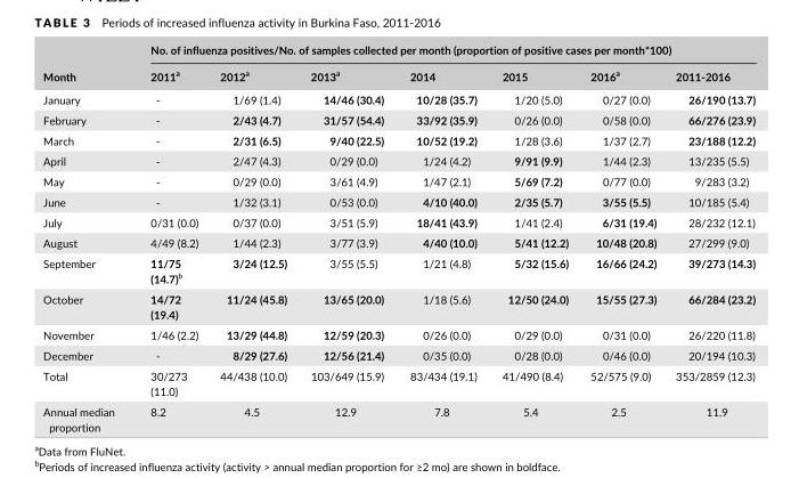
<table><thead><tr><td rowspan="2">Month</td><td colspan="7">No. of influenza positives/No. of samples collected per month (proportion of positive cases per month*100)</td></tr><tr><td>2011<sup>a</sup></td><td>2012<sup>a</sup></td><td>2013<sup>a</sup></td><td>2014</td><td>2015</td><td>2016<sup>a</sup></td><td>2011- 2016</td></tr></thead><tbody><tr><td>January</td><td>-</td><td>1/69 (1.4)</td><td>14/46 (30.4)</td><td>10/28 (35.7)</td><td>1/20 (5.0)</td><td>0/27 (0.0)</td><td>26/190 (13.7)</td></tr><tr><td>February</td><td>-</td><td>2/43 (4.7)</td><td>31/57 (54.4)</td><td>33/92 (35.9)</td><td>0/26 (0.0)</td><td>0/58 (0.0)</td><td>66/276 (23.9)</td></tr><tr><td>March</td><td>-</td><td>2/31 (6.5)</td><td>9/40 (22.5)</td><td>10/52 (19.2)</td><td>1/28 (3.6)</td><td>1/37 (2.7)</td><td>23/188 (12.2)</td></tr><tr><td>April</td><td>-</td><td>2/47 (4.3)</td><td>0/29 (0.0)</td><td>1/24 (4.2)</td><td>9/91 (9.9)</td><td>1/44 (2.3)</td><td>13/235 (5.5)</td></tr><tr><td>May</td><td>-</td><td>0/29 (0.0)</td><td>3/61 (4.9)</td><td>1/47 (2.1)</td><td>5/69 (7.2)</td><td>0/77 (0.0)</td><td>9/283 (3.2)</td></tr><tr><td>June</td><td>-</td><td>1/32 (3.1)</td><td>0/53 (0.0)</td><td>4/10 (40.0)</td><td>2/35 (5.7)</td><td>3/55 (5.5)</td><td>10/185 (5.4)</td></tr><tr><td>July</td><td>0/31 (0.0)</td><td>0/37 (0.0)</td><td>3/51 (5.9)</td><td>18/41 (43.9)</td><td>1/41 (2.4)</td><td>6/31 (19.4)</td><td>28/232 (12.1)</td></tr><tr><td>August</td><td>4/49 (8.2)</td><td>1/44 (2.3)</td><td>3/77 (3.9)</td><td>4/40 (10.0)</td><td>5/41 (12.2)</td><td>10/48 (20.8)</td><td>27/299 (9.0)</td></tr><tr><td>September</td><td>11/75 (14.7)b</td><td>3/24 (12.5)</td><td>3/55 (5.5)</td><td>1/21 (4.8)</td><td>5/32 (15.6)</td><td>16/66 (24.2)</td><td>39/273 (14.3)</td></tr><tr><td>October</td><td>14/72 (19.4)</td><td>11/24 (45.8)</td><td>13/65 (20.0)</td><td>1/18 (5.6)</td><td>12/50 (24.0)</td><td>15/55 (27.3)</td><td>66/284 (23.2)</td></tr><tr><td>November</td><td>1/46 (2.2)</td><td>13/29 (44.8)</td><td>12/59 (20.3)</td><td>0/26 (0.0)</td><td>0/29 (0.0)</td><td>0/31 (0.0)</td><td>26/220 (11.8)</td></tr><tr><td>December</td><td>-</td><td>8/29 (27.6)</td><td>12/56 (21.4)</td><td>0/35 (0.0)</td><td>0/28 (0.0)</td><td>0/46 (0.0)</td><td>20/194 (10.3)</td></tr><tr><td>Total</td><td>30/273 (11.0)</td><td>44/438 (10.0)</td><td>103/649 (15.9)</td><td>83/434 (19.1)</td><td>41/490 (8.4)</td><td>52/575 (9.0)</td><td>353/2859 (12.3)</td></tr><tr><td>Annual median proportion</td><td>8.2</td><td>4.5</td><td>12.9</td><td>7.8</td><td>5.4</td><td>2.5</td><td>11.9</td></tr></tbody></table>